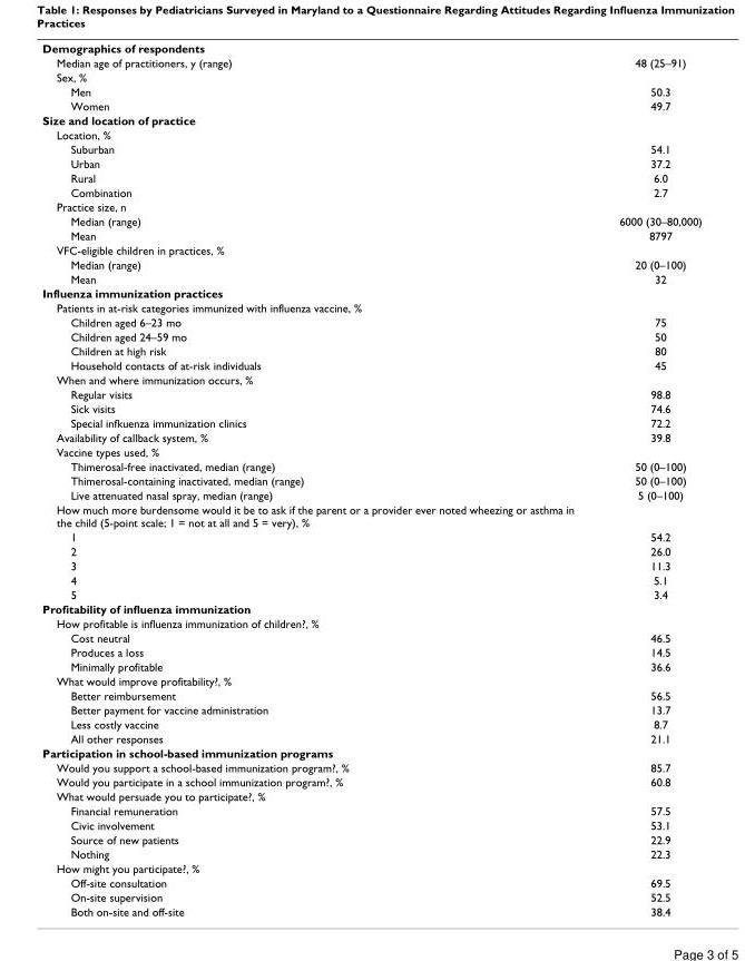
<table><tbody><tr><td colspan="2">Demographics of respondents</td></tr><tr><td>Median age of practitioners, y (range)</td><td>48 (25–91)</td></tr><tr><td colspan="2">Sex, %</td></tr><tr><td>Men</td><td>50.3</td></tr><tr><td>Women</td><td>49.7</td></tr><tr><td colspan="2">Size and location of practice</td></tr><tr><td colspan="2">Location, %</td></tr><tr><td>Suburban</td><td>54.1</td></tr><tr><td>Urban</td><td>37.2</td></tr><tr><td>Rural</td><td>6.0</td></tr><tr><td>Combination</td><td>2.7</td></tr><tr><td colspan="2">Practice size, n</td></tr><tr><td>Median (range)</td><td>6000 (30–80,000)</td></tr><tr><td>Mean</td><td>8797</td></tr><tr><td colspan="2">VFC-eligible children in practices, %</td></tr><tr><td>Median (range)</td><td>20 (0–100)</td></tr><tr><td>Mean</td><td>32</td></tr><tr><td colspan="2">Influenza immunization practices</td></tr><tr><td colspan="2">Patients in at-risk categories immunized with influenza vaccine, %</td></tr><tr><td>Children aged 6–23 mo</td><td>75</td></tr><tr><td>Children aged 24–59 mo</td><td>50</td></tr><tr><td>Children at high risk</td><td>80</td></tr><tr><td>Household contacts of at-risk individuals</td><td>45</td></tr><tr><td colspan="2">When and where immunization occurs, %</td></tr><tr><td>Regular visits</td><td>98.8</td></tr><tr><td>Sick visits</td><td>74.6</td></tr><tr><td>Special infkuenza immunization clinics</td><td>72.2</td></tr><tr><td>Availability of callback system, %</td><td>39.8</td></tr><tr><td colspan="2">Vaccine types used, %</td></tr><tr><td>Thimerosal-free inactivated, median (range)</td><td>50 (0–100)</td></tr><tr><td>Thimerosal-containing inactivated, median (range)</td><td>50 (0–100)</td></tr><tr><td>Live attenuated nasal spray, median (range)</td><td>5 (0–100)</td></tr><tr><td colspan="2">How much more burdensome would it be to ask if the parent or a provider ever noted wheezing or asthma in the child (5-point scale; 1 = not at all and 5 = very), %</td></tr><tr><td>1</td><td>54.2</td></tr><tr><td>2</td><td>26.0</td></tr><tr><td>3</td><td>11.3</td></tr><tr><td>4</td><td>5.1</td></tr><tr><td>5</td><td>3.4</td></tr><tr><td colspan="2">Profitability of influenza immunization</td></tr><tr><td colspan="2">How profitable is influenza immunization of children?, %</td></tr><tr><td>Cost neutral</td><td>46.5</td></tr><tr><td>Produces a loss</td><td>14.5</td></tr><tr><td>Minimally profitable</td><td>36.6</td></tr><tr><td colspan="2">What would improve profitability?, %</td></tr><tr><td>Better reimbursement</td><td>56.5</td></tr><tr><td>Better payment for vaccine administration</td><td>13.7</td></tr><tr><td>Less costly vaccine</td><td>8.7</td></tr><tr><td>All other responses</td><td>21.1</td></tr><tr><td colspan="2">Participation in school-based immunization programs</td></tr><tr><td>Would you support a school-based immunization program?, %</td><td>85.7</td></tr><tr><td>Would you participate in a school immunization program?, %</td><td>60.8</td></tr><tr><td colspan="2">What would persuade you to participate?, %</td></tr><tr><td>Financial remuneration</td><td>57.5</td></tr><tr><td>Civic involvement</td><td>53.1</td></tr><tr><td>Source of new patients</td><td>22.9</td></tr><tr><td>Nothing</td><td>22.3</td></tr><tr><td colspan="2">How might you participate?, %</td></tr><tr><td>Off-site consultation</td><td>69.5</td></tr><tr><td>On-site supervision</td><td>52.5</td></tr><tr><td>Both on-site and off-site</td><td>38.4</td></tr></tbody></table>